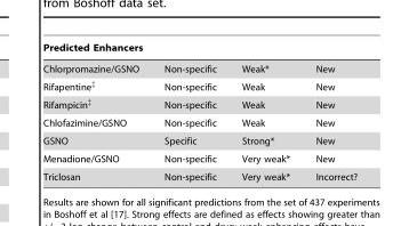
<table><thead><tr><td colspan="4">Predicted Enhancers</td></tr><tr><td>Chlorpromazine/GSNO</td><td>Non-specific</td><td>Weak*</td><td>New</td></tr></thead><tbody><tr><td>Rifapentine‡</td><td>Non-specific</td><td>Weak</td><td>New</td></tr><tr><td>Rifampicin‡</td><td>Non-specific</td><td>Weak</td><td>New</td></tr><tr><td>Chlofazimine/GSNO</td><td>Non-specific</td><td>Weak</td><td>New</td></tr><tr><td>GSNO</td><td>Specific</td><td>Strong*</td><td>New</td></tr><tr><td>Menadione/GSNO</td><td>Non-specific</td><td>Very weak*</td><td>New</td></tr><tr><td>Triclosan</td><td>Non-specific</td><td>Very weak*</td><td>Incorrect?</td></tr></tbody></table>